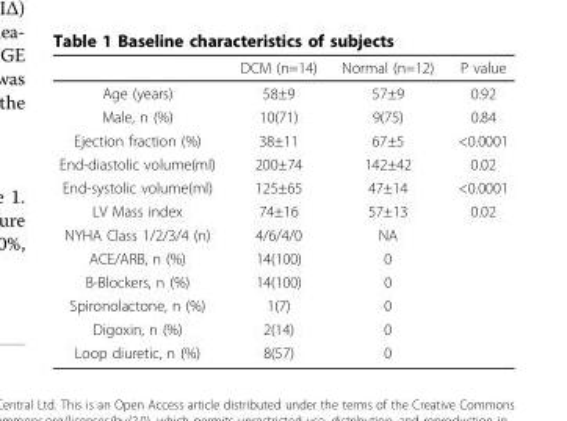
<table><thead><tr><td></td><td>DCM (n=14)</td><td>Normal (n=12)</td><td>P value</td></tr></thead><tbody><tr><td>Age (years)</td><td>58±9</td><td>57±9</td><td>0.92</td></tr><tr><td>Male, n (%)</td><td>10(71)</td><td>9(75)</td><td>0.84</td></tr><tr><td>Ejection fraction (%)</td><td>38±11</td><td>67±5</td><td>&lt;0.0001</td></tr><tr><td>End-diastolic volume(ml)</td><td>200±74</td><td>142±42</td><td>0.02</td></tr><tr><td>End-systolic volume(ml)</td><td>125±65</td><td>47±14</td><td>&lt;0.0001</td></tr><tr><td>LV Mass index</td><td>74±16</td><td>57±13</td><td>0.02</td></tr><tr><td>NYHA Class 1/2/3/4 (n)</td><td>4/6/4/0</td><td>NA</td><td></td></tr><tr><td>ACE/ARB, n (%)</td><td>14(100)</td><td>0</td><td></td></tr><tr><td>B-Blockers, n (%)</td><td>14(100)</td><td>0</td><td></td></tr><tr><td>Spironolactone, n (%)</td><td>1(7)</td><td>0</td><td></td></tr><tr><td>Digoxin, n (%)</td><td>2(14)</td><td>0</td><td></td></tr><tr><td>Loop diuretic, n (%)</td><td>8(57)</td><td>0</td><td></td></tr></tbody></table>